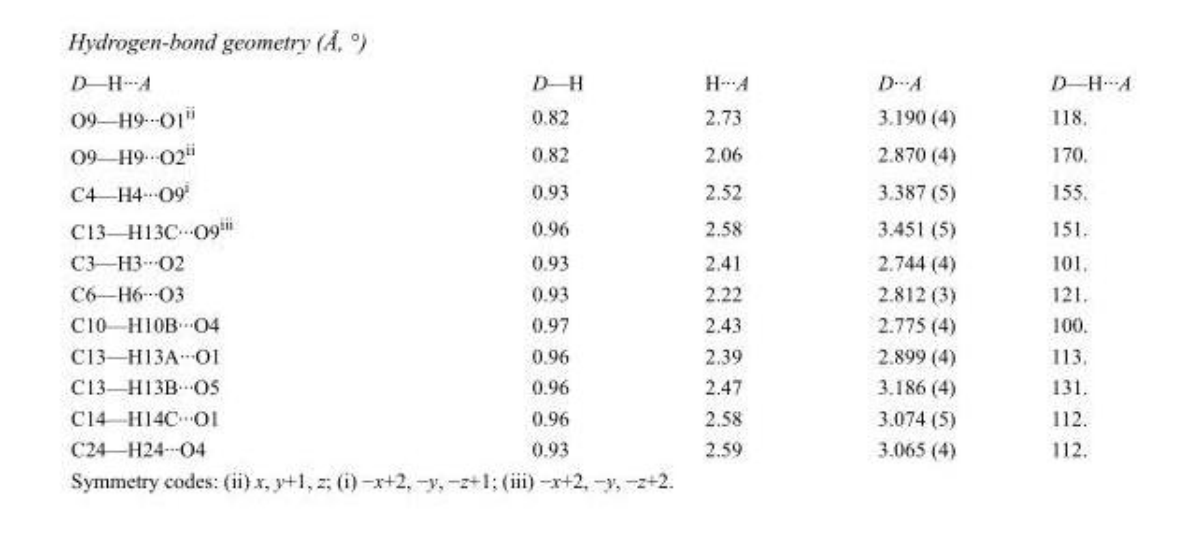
<table><tbody><tr><td>D—H···A</td><td>D—H</td><td>H···A</td><td>D···A</td><td>D—H···A</td></tr><tr><td>O9—H9···O1<sup>ii</sup></td><td>0.82</td><td>2.73</td><td>3.190 (4)</td><td>118.</td></tr><tr><td>O9—H9···O2<sup>ii</sup></td><td>0.82</td><td>2.06</td><td>2.870 (4)</td><td>170.</td></tr><tr><td>C4—H4···O9<sup>i</sup></td><td>0.93</td><td>2.52</td><td>3.387 (5)</td><td>155.</td></tr><tr><td>C13—H13C···O9<sup>iii</sup></td><td>0.96</td><td>2.58</td><td>3.451 (5)</td><td>151.</td></tr><tr><td>C3—H3···O2</td><td>0.93</td><td>2.41</td><td>2.744 (4)</td><td>101.</td></tr><tr><td>C6—H6···O3</td><td>0.93</td><td>2.22</td><td>2.812 (3)</td><td>121.</td></tr><tr><td>C10—H10B···O4</td><td>0.97</td><td>2.43</td><td>2.775 (4)</td><td>100.</td></tr><tr><td>C13—H13A···O1</td><td>0.96</td><td>2.39</td><td>2.899 (4)</td><td>113.</td></tr><tr><td>C13—H13B···O5</td><td>0.96</td><td>2.47</td><td>3.186 (4)</td><td>131.</td></tr><tr><td>C14—H14C···O1</td><td>0.96</td><td>2.58</td><td>3.074 (5)</td><td>112.</td></tr><tr><td>C24—H24···O4</td><td>0.93</td><td>2.59</td><td>3.065 (4)</td><td>112.</td></tr></tbody></table>